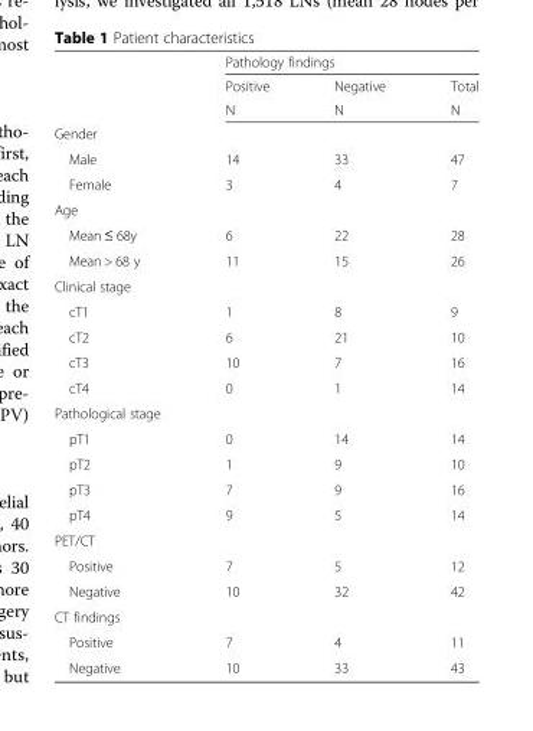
<table><thead><tr><td rowspan="3"></td><td colspan="3">Pathology findings</td></tr><tr><td rowspan="2">Positive N</td><td rowspan="2">Negative N</td><td rowspan="2">Total N</td></tr><tr></tr></thead><tbody><tr><td colspan="4">Gender</td></tr><tr><td>Male</td><td>14</td><td>33</td><td>47</td></tr><tr><td>Female</td><td>3</td><td>4</td><td>7</td></tr><tr><td colspan="4">Age</td></tr><tr><td>Mean ≤ 68y</td><td>6</td><td>22</td><td>28</td></tr><tr><td>Mean &gt; 68 y</td><td>11</td><td>15</td><td>26</td></tr><tr><td colspan="4">Clinical stage</td></tr><tr><td>cT1</td><td>1</td><td>8</td><td>9</td></tr><tr><td>cT2</td><td>6</td><td>21</td><td>10</td></tr><tr><td>cT3</td><td>10</td><td>7</td><td>16</td></tr><tr><td>cT4</td><td>0</td><td>1</td><td>14</td></tr><tr><td colspan="4">Pathological stage</td></tr><tr><td>pT1</td><td>0</td><td>14</td><td>14</td></tr><tr><td>pT2</td><td>1</td><td>9</td><td>10</td></tr><tr><td>pT3</td><td>7</td><td>9</td><td>16</td></tr><tr><td>pT4</td><td>9</td><td>5</td><td>14</td></tr><tr><td colspan="4">PET/CT</td></tr><tr><td>Positive</td><td>7</td><td>5</td><td>12</td></tr><tr><td>Negative</td><td>10</td><td>32</td><td>42</td></tr><tr><td colspan="4">CT findings</td></tr><tr><td>Positive</td><td>7</td><td>4</td><td>11</td></tr><tr><td>Negative</td><td>10</td><td>33</td><td>43</td></tr></tbody></table>